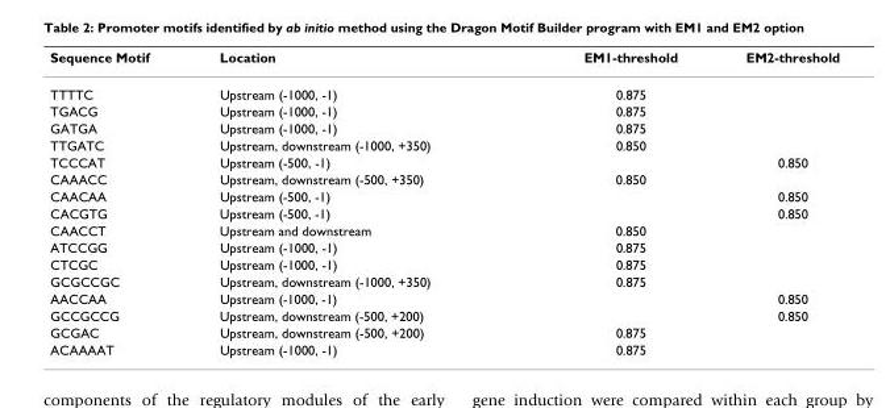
<table><thead><tr><td>Sequence Motif</td><td>Location</td><td>EM1-threshold</td><td>EM2-threshold</td></tr></thead><tbody><tr><td>TTTTC</td><td>Upstream (-1000, -1)</td><td>0.875</td><td></td></tr><tr><td>TGACG</td><td>Upstream (-1000, -1)</td><td>0.875</td><td></td></tr><tr><td>GATGA</td><td>Upstream (-1000, -1)</td><td>0.875</td><td></td></tr><tr><td>TTGATC</td><td>Upstream, downstream (-1000, +350)</td><td>0.850</td><td></td></tr><tr><td>TCCCAT</td><td>Upstream (-500, -1)</td><td></td><td>0.850</td></tr><tr><td>CAAACC</td><td>Upstream, downstream (-500, +350)</td><td>0.850</td><td></td></tr><tr><td>CAACAA</td><td>Upstream (-500, -1)</td><td></td><td>0.850</td></tr><tr><td>CACGTG</td><td>Upstream (-500, -1)</td><td></td><td>0.850</td></tr><tr><td>CAACCT</td><td>Upstream and downstream</td><td>0.850</td><td></td></tr><tr><td>ATCCGG</td><td>Upstream (-1000, -1)</td><td>0.875</td><td></td></tr><tr><td>CTCGC</td><td>Upstream (-1000, -1)</td><td>0.875</td><td></td></tr><tr><td>GCGCCGC</td><td>Upstream, downstream (-1000, +350)</td><td>0.875</td><td></td></tr><tr><td>AACCAA</td><td>Upstream (-1000, -1)</td><td></td><td>0.850</td></tr><tr><td>GCCGCCG</td><td>Upstream, downstream (-500, +200)</td><td></td><td>0.850</td></tr><tr><td>GCGAC</td><td>Upstream, downstream (-500, +200)</td><td>0.875</td><td></td></tr><tr><td>ACAAAAT</td><td>Upstream (-1000, -1)</td><td>0.875</td><td></td></tr></tbody></table>